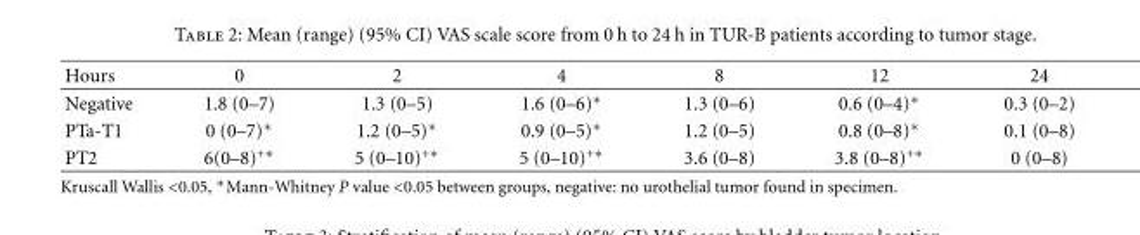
<table><thead><tr><td>Hours</td><td>0</td><td>2</td><td>4</td><td>8</td><td>12</td><td>24</td></tr></thead><tbody><tr><td>Negative</td><td>1.8 (0–7)</td><td>1.3 (0–5)</td><td>1.6 (0–6)∗</td><td>1.3 (0–6)</td><td>0.6 (0–4)∗</td><td>0.3 (0–2)</td></tr><tr><td>PTa-T1</td><td>0 (0–7)∗</td><td>1.2 (0–5)∗</td><td>0.9 (0–5)∗</td><td>1.2 (0–5)</td><td>0.8 (0–8)∗</td><td>0.1 (0–8)</td></tr><tr><td>PT2</td><td>6(0–8)<sup>+∗</sup></td><td>5 (0–10)<sup>+∗</sup></td><td>5 (0–10)<sup>+∗</sup></td><td>3.6 (0–8)</td><td>3.8 (0–8)<sup>+∗</sup></td><td>0 (0–8)</td></tr></tbody></table>